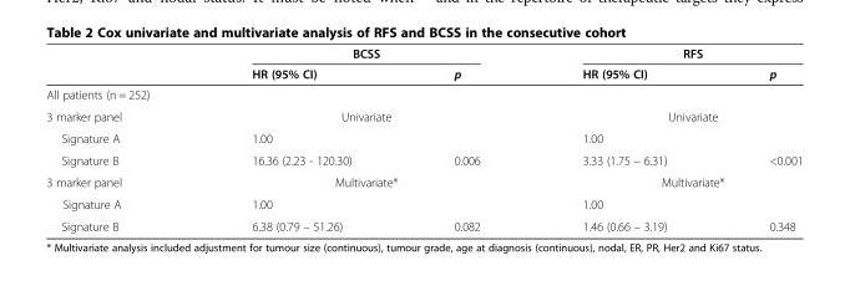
<table><thead><tr><td rowspan="2"></td><td colspan="2">BCSS</td><td colspan="2">RFS</td></tr><tr><td>HR (95% CI)</td><td>p</td><td>HR (95% CI)</td><td>p</td></tr></thead><tbody><tr><td colspan="5">All patients (n = 252)</td></tr><tr><td>3 marker panel</td><td colspan="2">Univariate</td><td colspan="2">Univariate</td></tr><tr><td>Signature A</td><td>1.00</td><td></td><td>1.00</td><td></td></tr><tr><td>Signature B</td><td>16.36 (2.23 - 120.30)</td><td>0.006</td><td>3.33 (1.75 – 6.31)</td><td>&lt;0.001</td></tr><tr><td>3 marker panel</td><td colspan="2">Multivariate*</td><td colspan="2">Multivariate*</td></tr><tr><td>Signature A</td><td>1.00</td><td></td><td>1.00</td><td></td></tr><tr><td>Signature B</td><td>6.38 (0.79 – 51.26)</td><td>0.082</td><td>1.46 (0.66 – 3.19)</td><td>0.348</td></tr></tbody></table>